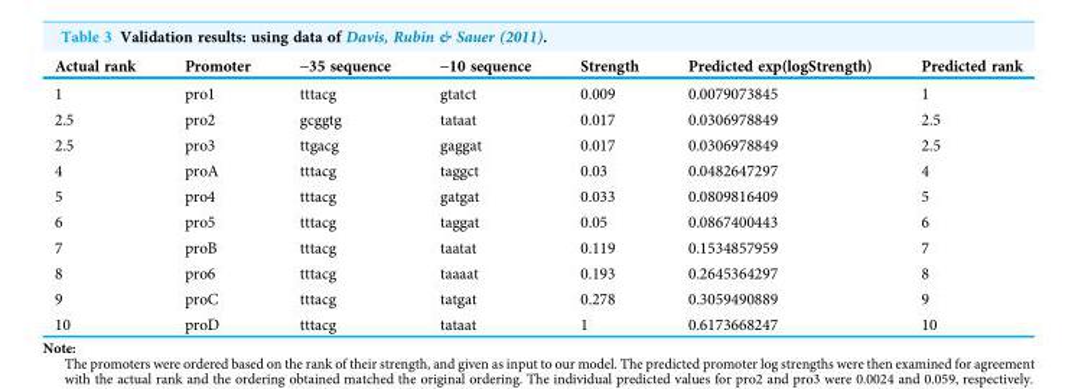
<table><thead><tr><td>Actual rank</td><td>Promoter</td><td>-35 sequence</td><td>-10 sequence</td><td>Strength</td><td>Predicted exp(logStrength)</td><td>Predicted rank</td></tr></thead><tbody><tr><td>1</td><td>pro1</td><td>tttacg</td><td>gtatct</td><td>0.009</td><td>0.0079073845</td><td>1</td></tr><tr><td>2.5</td><td>pro2</td><td>gcggtg</td><td>tataat</td><td>0.017</td><td>0.0306978849</td><td>2.5</td></tr><tr><td>2.5</td><td>pro3</td><td>ttgacg</td><td>gaggat</td><td>0.017</td><td>0.0306978849</td><td>2.5</td></tr><tr><td>4</td><td>proA</td><td>tttacg</td><td>taggct</td><td>0.03</td><td>0.0482647297</td><td>4</td></tr><tr><td>5</td><td>pro4</td><td>tttacg</td><td>gatgat</td><td>0.033</td><td>0.0809816409</td><td>5</td></tr><tr><td>6</td><td>pro5</td><td>tttacg</td><td>taggat</td><td>0.05</td><td>0.0867400443</td><td>6</td></tr><tr><td>7</td><td>proB</td><td>tttacg</td><td>taatat</td><td>0.119</td><td>0.1534857959</td><td>7</td></tr><tr><td>8</td><td>pro6</td><td>tttacg</td><td>taaaat</td><td>0.193</td><td>0.2645364297</td><td>8</td></tr><tr><td>9</td><td>proC</td><td>tttacg</td><td>tatgat</td><td>0.278</td><td>0.3059490889</td><td>9</td></tr><tr><td>10</td><td>proD</td><td>tttacg</td><td>tataat</td><td>1</td><td>0.6173668247</td><td>10</td></tr></tbody></table>